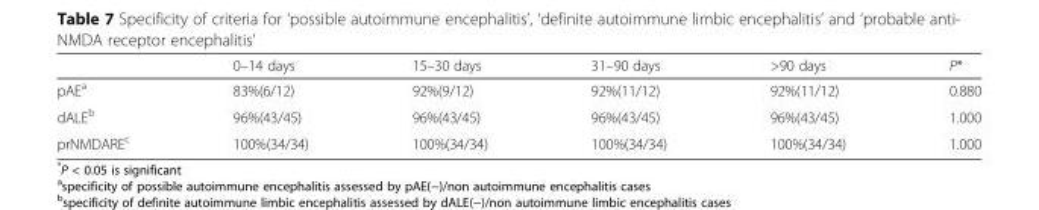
<table><thead><tr><td></td><td>0–14 days</td><td>15–30 days</td><td>31–90 days</td><td>&gt;90 days</td><td>P*</td></tr></thead><tbody><tr><td>pAE<sup>a</sup></td><td>83%(6/12)</td><td>92%(9/12)</td><td>92%(11/12)</td><td>92%(11/12)</td><td>0.880</td></tr><tr><td>dALE<sup>b</sup></td><td>96%(43/45)</td><td>96%(43/45)</td><td>96%(43/45)</td><td>96%(43/45)</td><td>1.000</td></tr><tr><td>prNMDARE<sup>c</sup></td><td>100%(34/34)</td><td>100%(34/34)</td><td>100%(34/34)</td><td>100%(34/34)</td><td>1.000</td></tr></tbody></table>